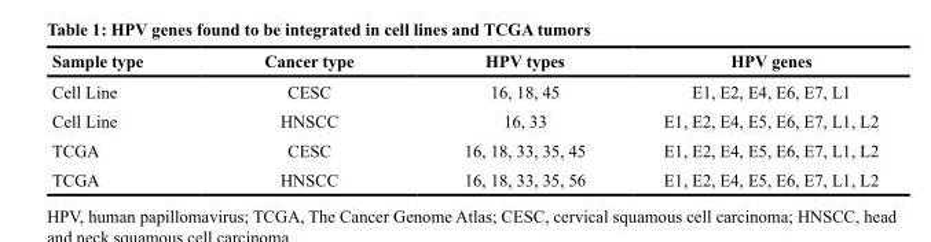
<table><thead><tr><td>Sample type</td><td>Cancer type</td><td>HPV types</td><td>HPV genes</td></tr></thead><tbody><tr><td>Cell Line</td><td>CESC</td><td>16, 18, 45</td><td>E1, E2, E4, E6, E7, L1</td></tr><tr><td>Cell Line</td><td>HNSCC</td><td>16, 33</td><td>E1, E2, E4, E5, E6, E7, L1, L2</td></tr><tr><td>TCGA</td><td>CESC</td><td>16, 18, 33, 35, 45</td><td>E1, E2, E4, E5, E6, E7, L1, L2</td></tr><tr><td>TCGA</td><td>HNSCC</td><td>16, 18, 33, 35, 56</td><td>E1, E2, E4, E5, E6, E7, L1, L2</td></tr></tbody></table>